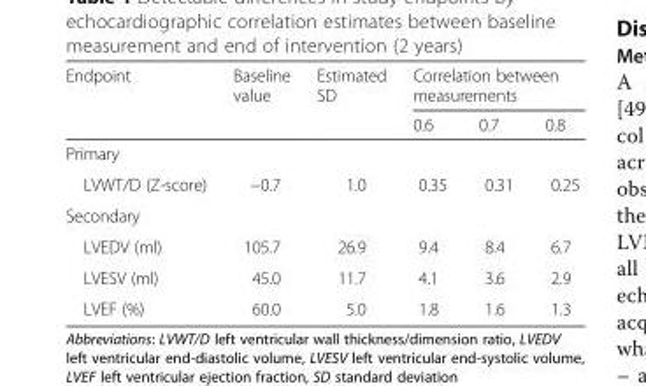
<table><thead><tr><td rowspan="2">Endpoint</td><td rowspan="2">Baseline value</td><td rowspan="2">Estimated SD</td><td colspan="3">Correlation between measurements</td></tr><tr><td>0.6</td><td>0.7</td><td>0.8</td></tr></thead><tbody><tr><td colspan="6">Primary</td></tr><tr><td>LVWT/D (Z-score)</td><td>−0.7</td><td>1.0</td><td>0.35</td><td>0.31</td><td>0.25</td></tr><tr><td colspan="6">Secondary</td></tr><tr><td>LVEDV (ml)</td><td>105.7</td><td>26.9</td><td>9.4</td><td>8.4</td><td>6.7</td></tr><tr><td>LVESV (ml)</td><td>45.0</td><td>11.7</td><td>4.1</td><td>3.6</td><td>2.9</td></tr><tr><td>LVEF (%)</td><td>60.0</td><td>5.0</td><td>1.8</td><td>1.6</td><td>1.3</td></tr></tbody></table>